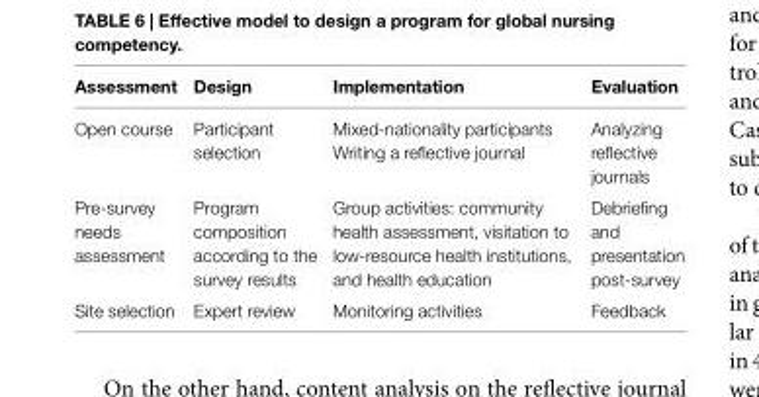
<table><thead><tr><td>assessment</td><td>Design</td><td>Implementation</td><td>evaluation</td></tr></thead><tbody><tr><td>Open course</td><td>Participant selection</td><td>Mixed-nationality participants Writing a reflective journal</td><td>Analyzing reflective journals</td></tr><tr><td>Pre-survey needs assessment</td><td>Program composition according to the survey results</td><td>Group activities: community health assessment, visitation to low-resource health institutions, and health education</td><td>Debriefing and presentation post-survey</td></tr><tr><td>Site selection</td><td>Expert review</td><td>Monitoring activities</td><td>Feedback</td></tr></tbody></table>